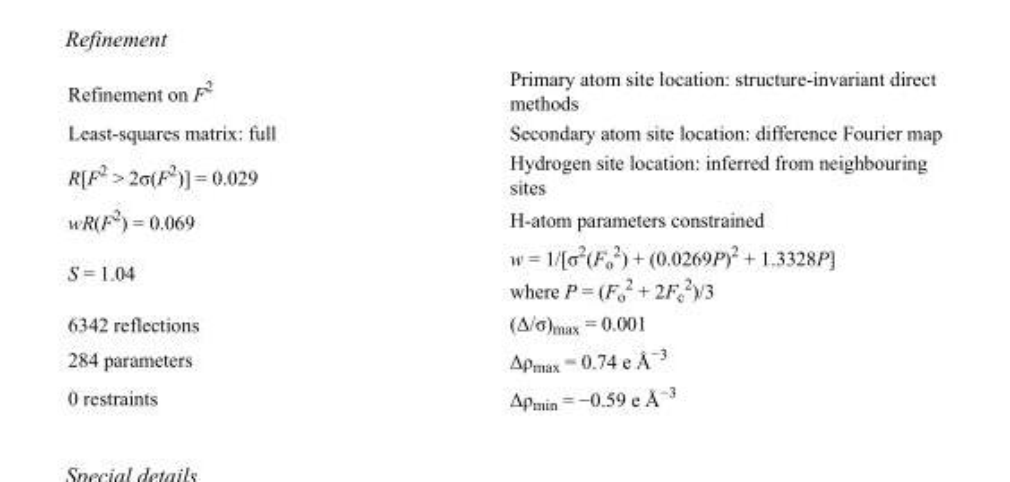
<table><tbody><tr><td>Refinement on F<sup>2</sup></td><td>Primary atom site location: structure-invariant direct methods</td></tr><tr><td>Least-squares matrix: full</td><td>Secondary atom site location: difference Fourier map</td></tr><tr><td>R[F<sup>2</sup> &gt; 2σ(F<sup>2</sup>)] = 0.029</td><td>Hydrogen site location: inferred from neighbouring sites</td></tr><tr><td>wR(F<sup>2</sup>) = 0.069</td><td>H-atom parameters constrained</td></tr><tr><td>S = 1.04</td><td>w = 1/[σ<sup>2</sup>(F<sub>o</sub> <sup>2</sup>) + (0.0269P)<sup>2</sup> + 1.3328P] where P = (F<sub>o</sub> <sup>2</sup> + 2F<sub>c</sub> <sup>2</sup>)/3</td></tr><tr><td>6342 reflections</td><td>(Δ/σ)<sub>max</sub> = 0.001</td></tr><tr><td>284 parameters</td><td>Δρ<sub>max</sub> = 0.74 e Å<sup>−3</sup></td></tr><tr><td>0 restraints</td><td>Δρ<sub>min</sub> = −0.59 e Å<sup>−3</sup></td></tr></tbody></table>